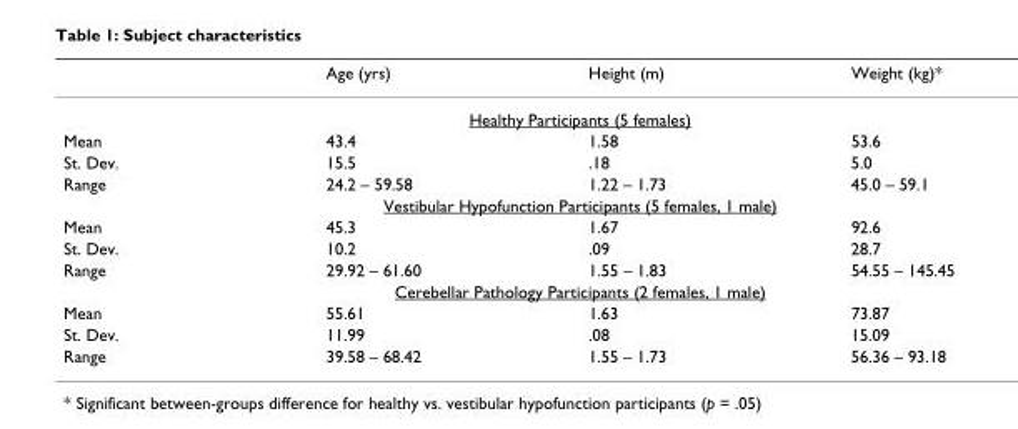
<table><thead><tr><td></td><td>Age (yrs)</td><td>Height (m)</td><td>Weight (kg)*</td></tr></thead><tbody><tr><td colspan="4">Healthy Participants (5 females)</td></tr><tr><td>Mean</td><td>43.4</td><td>1.58</td><td>53.6</td></tr><tr><td>St. Dev.</td><td>15.5</td><td>.18</td><td>5.0</td></tr><tr><td>Range</td><td>24.2 – 59.58</td><td>1.22 – 1.73</td><td>45.0 – 59.1</td></tr><tr><td colspan="4">Vestibular Hypofunction Participants (5 females, 1 male)</td></tr><tr><td>Mean</td><td>45.3</td><td>1.67</td><td>92.6</td></tr><tr><td>St. Dev.</td><td>10.2</td><td>.09</td><td>28.7</td></tr><tr><td>Range</td><td>29.92 – 61.60</td><td>1.55 – 1.83</td><td>54.55 – 145.45</td></tr><tr><td colspan="4">Cerebellar Pathology Participants (2 females, 1 male)</td></tr><tr><td>Mean</td><td>55.61</td><td>1.63</td><td>73.87</td></tr><tr><td>St. Dev.</td><td>11.99</td><td>.08</td><td>15.09</td></tr><tr><td>Range</td><td>39.58 – 68.42</td><td>1.55 – 1.73</td><td>56.36 – 93.18</td></tr></tbody></table>